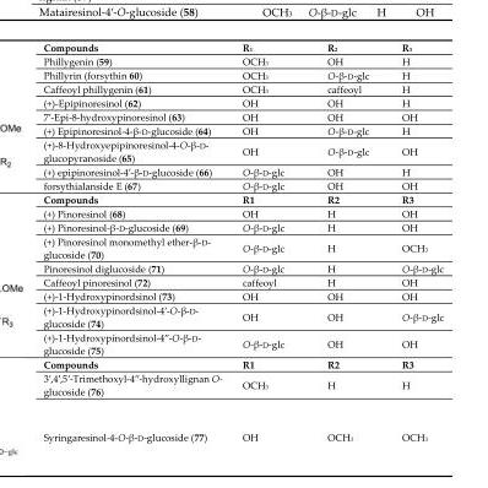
<table><tbody><tr><td>Compounds</td><td>R<sub>1</sub></td><td>R<sub>2</sub></td><td>R<sub>3</sub></td></tr><tr><td>Phillygenin (59)</td><td>OCH<sub>3</sub></td><td>OH</td><td>H</td></tr><tr><td>Phillyrin (forsythin 60)</td><td>OCH<sub>3</sub></td><td>O-β-D-glc</td><td>H</td></tr><tr><td>Caffeoyl phillygenin (61)</td><td>OCH<sub>3</sub></td><td>caffeoyl</td><td>H</td></tr><tr><td>(+)-Epipinoresinol (62)</td><td>OH</td><td>OH</td><td>H</td></tr><tr><td>7′-Epi-8-hydroxypinoresinol (63)</td><td>OH</td><td>OH</td><td>OH</td></tr><tr><td>(+) Epipinoresinol-4-β-D-glucoside (64)</td><td>OH</td><td>O-β-D-glc</td><td>H</td></tr><tr><td>(+)-8-Hydroxyepipinoresinol-4-O-β-D- glucopyranoside (65)</td><td>OH</td><td>O-β-D-glc</td><td>OH</td></tr><tr><td>(+) epipinoresinol-4′-β-D-glucoside (66)</td><td>O-β-D-glc</td><td>OH</td><td>H</td></tr><tr><td>forsythialanside E (67)</td><td>O-β-D-glc</td><td>OH</td><td>OH</td></tr><tr><td>Compounds</td><td>R<sub>1</sub></td><td>R<sub>2</sub></td><td>R<sub>3</sub></td></tr><tr><td>(+) Pinoresinol (68)</td><td>OH</td><td>H</td><td>OH</td></tr><tr><td>(+) Pinoresinol-β-D-glucoside (69)</td><td>O-β-D-glc</td><td>H</td><td>OH</td></tr><tr><td>(+) Pinoresinol monomethyl ether-β-D- glucoside (70)</td><td>O-β-D-glc</td><td>H</td><td>OCH<sub>3</sub></td></tr><tr><td>Pinoresinol diglucoside (71)</td><td>O-β-D-glc</td><td>H</td><td>O-β-D-glc</td></tr><tr><td>Caffeoyl pinoresinol (72)</td><td>caffeoyl</td><td>H</td><td>OH</td></tr><tr><td>(+)-1-Hydroxypinordsinol (73)</td><td>OH</td><td>OH</td><td>OH</td></tr><tr><td>(+)-1-Hydroxypinordsinol-4′-O-β-D- glucoside (74)</td><td>OH</td><td>OH</td><td>O-β-D-glc</td></tr><tr><td>(+)-1-Hydroxypinordsinol-4′′-O-β-D- glucoside (75)</td><td>O-β-D-glc</td><td>OH</td><td>OH</td></tr><tr><td>Compounds</td><td>R<sub>1</sub></td><td>R<sub>2</sub></td><td>R<sub>3</sub></td></tr><tr><td>3′,4′,5′-Trimethoxyl-4′′-hydroxyllignan O- glucoside (76)</td><td>OCH<sub>3</sub></td><td>H</td><td>H</td></tr><tr><td>Syringaresinol-4-O-β-D-glucoside (77)</td><td>OH</td><td>OCH<sub>3</sub></td><td>OCH<sub>3</sub></td></tr></tbody></table>